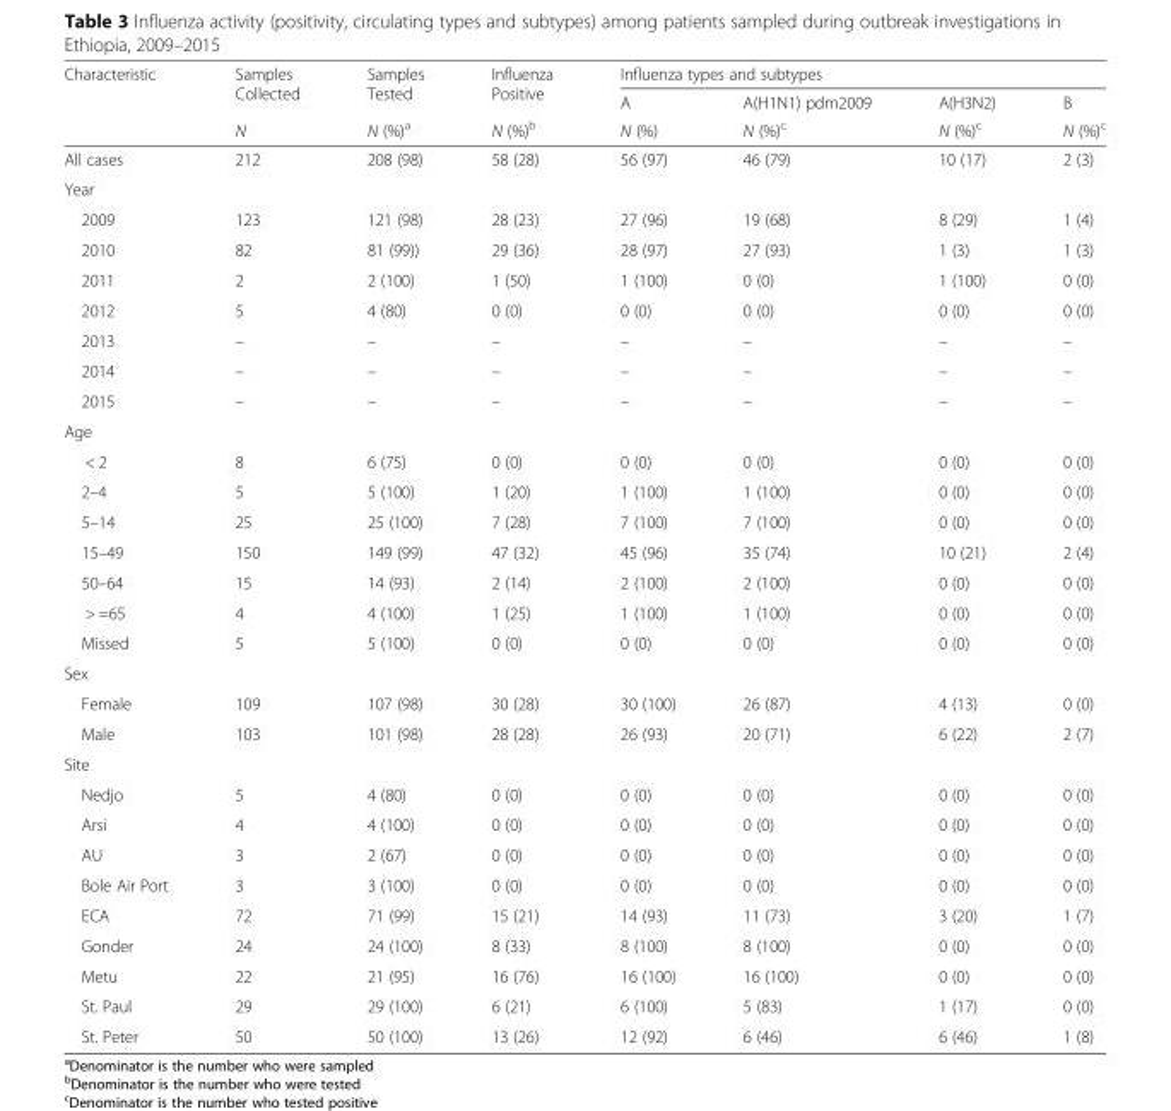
<table><thead><tr><td rowspan="3">Characteristic</td><td rowspan="3">Samples Collected N</td><td rowspan="3">Samples Tested N (%)<sup>a</sup></td><td rowspan="3">Influenza Positive N (%)<sup>b</sup></td><td colspan="4">Influenza types and subtypes</td></tr><tr><td rowspan="2">A N (%)</td><td rowspan="2">A(H1N1) pdm2009 N (%)<sup>c</sup></td><td rowspan="2">A(H3N2) N (%)<sup>c</sup></td><td rowspan="2">B N (%)<sup>c</sup></td></tr><tr></tr></thead><tbody><tr><td>All cases</td><td>212</td><td>208 (98)</td><td>58 (28)</td><td>56 (97)</td><td>46 (79)</td><td>10 (17)</td><td>2 (3)</td></tr><tr><td colspan="8">Year</td></tr><tr><td>2009</td><td>123</td><td>121 (98)</td><td>28 (23)</td><td>27 (96)</td><td>19 (68)</td><td>8 (29)</td><td>1 (4)</td></tr><tr><td>2010</td><td>82</td><td>81 (99))</td><td>29 (36)</td><td>28 (97)</td><td>27 (93)</td><td>1 (3)</td><td>1 (3)</td></tr><tr><td>2011</td><td>2</td><td>2 (100)</td><td>1 (50)</td><td>1 (100)</td><td>0 (0)</td><td>1 (100)</td><td>0 (0)</td></tr><tr><td>2012</td><td>5</td><td>4 (80)</td><td>0 (0)</td><td>0 (0)</td><td>0 (0)</td><td>0 (0)</td><td>0 (0)</td></tr><tr><td>2013</td><td>–</td><td>–</td><td>–</td><td>–</td><td>–</td><td>–</td><td>–</td></tr><tr><td>2014</td><td>–</td><td>–</td><td>–</td><td>–</td><td>–</td><td>–</td><td>–</td></tr><tr><td>2015</td><td>–</td><td>–</td><td>–</td><td>–</td><td>–</td><td>–</td><td>–</td></tr><tr><td colspan="8">Age</td></tr><tr><td>&lt; 2</td><td>8</td><td>6 (75)</td><td>0 (0)</td><td>0 (0)</td><td>0 (0)</td><td>0 (0)</td><td>0 (0)</td></tr><tr><td>2–4</td><td>5</td><td>5 (100)</td><td>1 (20)</td><td>1 (100)</td><td>1 (100)</td><td>0 (0)</td><td>0 (0)</td></tr><tr><td>5–14</td><td>25</td><td>25 (100)</td><td>7 (28)</td><td>7 (100)</td><td>7 (100)</td><td>0 (0)</td><td>0 (0)</td></tr><tr><td>15–49</td><td>150</td><td>149 (99)</td><td>47 (32)</td><td>45 (96)</td><td>35 (74)</td><td>10 (21)</td><td>2 (4)</td></tr><tr><td>50–64</td><td>15</td><td>14 (93)</td><td>2 (14)</td><td>2 (100)</td><td>2 (100)</td><td>0 (0)</td><td>0 (0)</td></tr><tr><td>&gt; =65</td><td>4</td><td>4 (100)</td><td>1 (25)</td><td>1 (100)</td><td>1 (100)</td><td>0 (0)</td><td>0 (0)</td></tr><tr><td>Missed</td><td>5</td><td>5 (100)</td><td>0 (0)</td><td>0 (0)</td><td>0 (0)</td><td>0 (0)</td><td>0 (0)</td></tr><tr><td colspan="8">Sex</td></tr><tr><td>Female</td><td>109</td><td>107 (98)</td><td>30 (28)</td><td>30 (100)</td><td>26 (87)</td><td>4 (13)</td><td>0 (0)</td></tr><tr><td>Male</td><td>103</td><td>101 (98)</td><td>28 (28)</td><td>26 (93)</td><td>20 (71)</td><td>6 (22)</td><td>2 (7)</td></tr><tr><td colspan="8">Site</td></tr><tr><td>Nedjo</td><td>5</td><td>4 (80)</td><td>0 (0)</td><td>0 (0)</td><td>0 (0)</td><td>0 (0)</td><td>0 (0)</td></tr><tr><td>Arsi</td><td>4</td><td>4 (100)</td><td>0 (0)</td><td>0 (0)</td><td>0 (0)</td><td>0 (0)</td><td>0 (0)</td></tr><tr><td>AU</td><td>3</td><td>2 (67)</td><td>0 (0)</td><td>0 (0)</td><td>0 (0)</td><td>0 (0)</td><td>0 (0)</td></tr><tr><td>Bole Air Port</td><td>3</td><td>3 (100)</td><td>0 (0)</td><td>0 (0)</td><td>0 (0)</td><td>0 (0)</td><td>0 (0)</td></tr><tr><td>ECA</td><td>72</td><td>71 (99)</td><td>15 (21)</td><td>14 (93)</td><td>11 (73)</td><td>3 (20)</td><td>1 (7)</td></tr><tr><td>Gonder</td><td>24</td><td>24 (100)</td><td>8 (33)</td><td>8 (100)</td><td>8 (100)</td><td>0 (0)</td><td>0 (0)</td></tr><tr><td>Metu</td><td>22</td><td>21 (95)</td><td>16 (76)</td><td>16 (100)</td><td>16 (100)</td><td>0 (0)</td><td>0 (0)</td></tr><tr><td>St. Paul</td><td>29</td><td>29 (100)</td><td>6 (21)</td><td>6 (100)</td><td>5 (83)</td><td>1 (17)</td><td>0 (0)</td></tr><tr><td>St. Peter</td><td>50</td><td>50 (100)</td><td>13 (26)</td><td>12 (92)</td><td>6 (46)</td><td>6 (46)</td><td>1 (8)</td></tr></tbody></table>